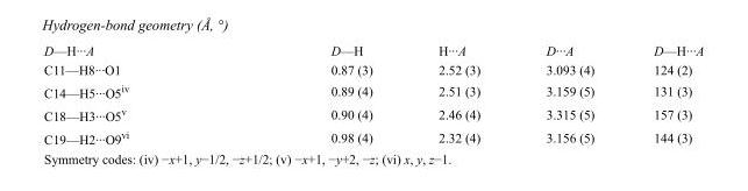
<table><tbody><tr><td>D—H···A</td><td>D—H</td><td>H···A</td><td>D···A</td><td>D—H···A</td></tr><tr><td>C11—H8···O1</td><td>0.87 (3)</td><td>2.52 (3)</td><td>3.093 (4)</td><td>124 (2)</td></tr><tr><td>C14—H5···O5<sup>iv</sup></td><td>0.89 (4)</td><td>2.51 (3)</td><td>3.159 (5)</td><td>131 (3)</td></tr><tr><td>C18—H3···O5<sup>v</sup></td><td>0.90 (4)</td><td>2.46 (4)</td><td>3.315 (5)</td><td>157 (3)</td></tr><tr><td>C19—H2···O9<sup>vi</sup></td><td>0.98 (4)</td><td>2.32 (4)</td><td>3.156 (5)</td><td>144 (3)</td></tr></tbody></table>